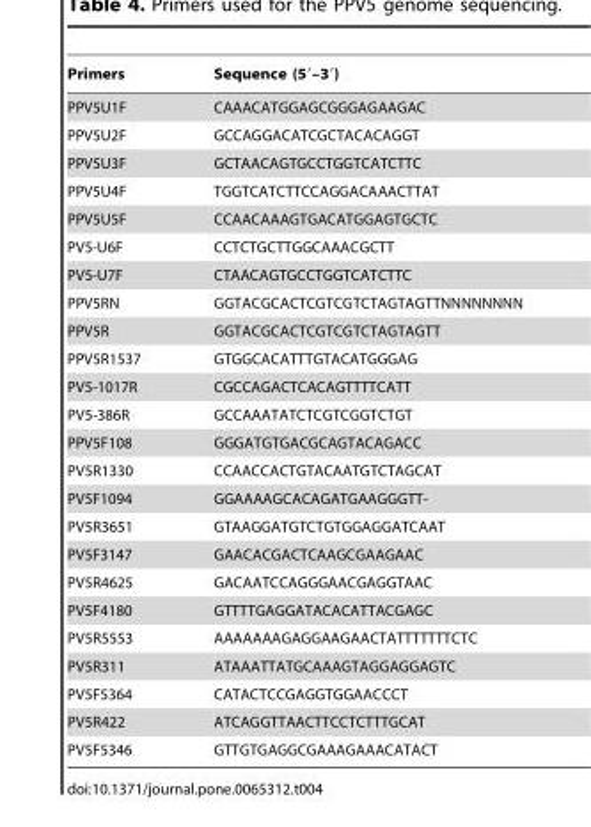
<table><thead><tr><td>Primers</td><td>Sequence (5′–3′)</td></tr></thead><tbody><tr><td>PPV5U1F</td><td>CAAACATGGAGCGGGAGAAGAC</td></tr><tr><td>PPV5U2F</td><td>GCCAGGACATCGCTACACAGGT</td></tr><tr><td>PPV5U3F</td><td>GCTAACAGTGCCTGGTCATCTTC</td></tr><tr><td>PPV5U4F</td><td>TGGTCATCTTCCAGGACAAACTTAT</td></tr><tr><td>PPV5U5F</td><td>CCAACAAAGTGACATGGAGTGCTC</td></tr><tr><td>PV5-U6F</td><td>CCTCTGCTTGGCAAACGCTT</td></tr><tr><td>PV5-U7F</td><td>CTAACAGTGCCTGGTCATCTTC</td></tr><tr><td>PPV5RN</td><td>GGTACGCACTCGTCGTCTAGTAGTTNNNNNNNN</td></tr><tr><td>PPV5R</td><td>GGTACGCACTCGTCGTCTAGTAGTT</td></tr><tr><td>PPV5R1537</td><td>GTGGCACATTTGTACATGGGAG</td></tr><tr><td>PV5-1017R</td><td>CGCCAGACTCACAGTTTTCATT</td></tr><tr><td>PV5-386R</td><td>GCCAAATATCTCGTCGGTCTGT</td></tr><tr><td>PPV5F108</td><td>GGGATGTGACGCAGTACAGACC</td></tr><tr><td>PV5R1330</td><td>CCAACCACTGTACAATGTCTAGCAT</td></tr><tr><td>PV5F1094</td><td>GGAAAAGCACAGATGAAGGGTT-</td></tr><tr><td>PV5R3651</td><td>GTAAGGATGTCTGTGGAGGATCAAT</td></tr><tr><td>PV5F3147</td><td>GAACACGACTCAAGCGAAGAAC</td></tr><tr><td>PV5R4625</td><td>GACAATCCAGGGAACGAGGTAAC</td></tr><tr><td>PV5F4180</td><td>GTTTTGAGGATACACATTACGAGC</td></tr><tr><td>PV5R5553</td><td>AAAAAAAGAGGAAGAACTATTTTTTTCTC</td></tr><tr><td>PV5R311</td><td>ATAAATTATGCAAAGTAGGAGGAGTC</td></tr><tr><td>PV5F5364</td><td>CATACTCCGAGGTGGAACCCT</td></tr><tr><td>PV5R422</td><td>ATCAGGTTAACTTCCTCTTTGCAT</td></tr><tr><td>PV5F5346</td><td>GTTGTGAGGCGAAAGAAACATACT</td></tr></tbody></table>